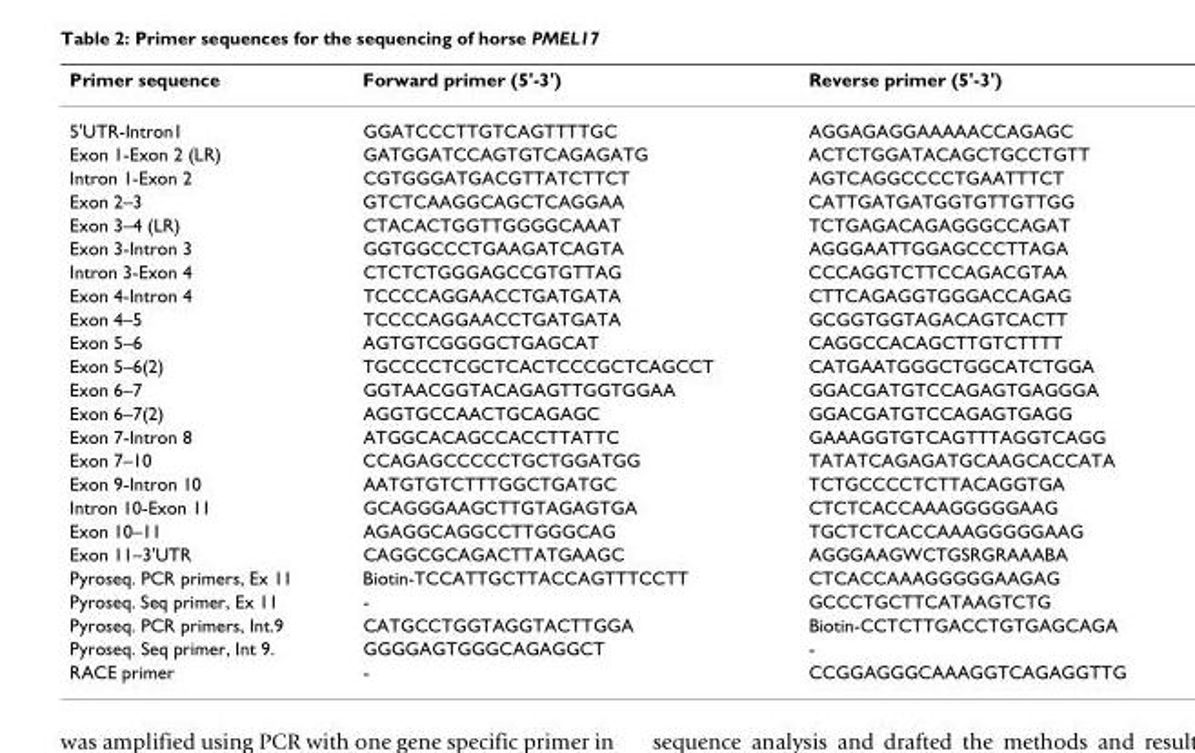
<table><thead><tr><td>Primer sequence</td><td>Forward primer (5&#x27;-3&#x27;)</td><td>Reverse primer (5&#x27;-3&#x27;)</td></tr></thead><tbody><tr><td>5&#x27;UTR-Intron1</td><td>GGATCCCTTGTCAGTTTTGC</td><td>AGGAGAGGAAAAACCAGAGC</td></tr><tr><td>Exon 1-Exon 2 (LR)</td><td>GATGGATCCAGTGTCAGAGATG</td><td>ACTCTGGATACAGCTGCCTGTT</td></tr><tr><td>Intron 1-Exon 2</td><td>CGTGGGATGACGTTATCTTCT</td><td>AGTCAGGCCCCTGAATTTCT</td></tr><tr><td>Exon 2–3</td><td>GTCTCAAGGCAGCTCAGGAA</td><td>CATTGATGATGGTGTTGTTGG</td></tr><tr><td>Exon 3–4 (LR)</td><td>CTACACTGGTTGGGGCAAAT</td><td>TCTGAGACAGAGGGCCAGAT</td></tr><tr><td>Exon 3-Intron 3</td><td>GGTGGCCCTGAAGATCAGTA</td><td>AGGGAATTGGAGCCCTTAGA</td></tr><tr><td>Intron 3-Exon 4</td><td>CTCTCTGGGAGCCGTGTTAG</td><td>CCCAGGTCTTCCAGACGTAA</td></tr><tr><td>Exon 4-Intron 4</td><td>TCCCCAGGAACCTGATGATA</td><td>CTTCAGAGGTGGGACCAGAG</td></tr><tr><td>Exon 4–5</td><td>TCCCCAGGAACCTGATGATA</td><td>GCGGTGGTAGACAGTCACTT</td></tr><tr><td>Exon 5–6</td><td>AGTGTCGGGGCTGAGCAT</td><td>CAGGCCACAGCTTGTCTTTT</td></tr><tr><td>Exon 5–6(2)</td><td>TGCCCCTCGCTCACTCCCGCTCAGCCT</td><td>CATGAATGGGCTGGCATCTGGA</td></tr><tr><td>Exon 6–7</td><td>GGTAACGGTACAGAGTTGGTGGAA</td><td>GGACGATGTCCAGAGTGAGGGA</td></tr><tr><td>Exon 6–7(2)</td><td>AGGTGCCAACTGCAGAGC</td><td>GGACGATGTCCAGAGTGAGG</td></tr><tr><td>Exon 7-Intron 8</td><td>ATGGCACAGCCACCTTATTC</td><td>GAAAGGTGTCAGTTTAGGTCAGG</td></tr><tr><td>Exon 7–10</td><td>CCAGAGCCCCCTGCTGGATGG</td><td>TATATCAGAGATGCAAGCACCATA</td></tr><tr><td>Exon 9-Intron 10</td><td>AATGTGTCTTTGGCTGATGC</td><td>TCTGCCCCTCTTACAGGTGA</td></tr><tr><td>Intron 10-Exon 11</td><td>GCAGGGAAGCTTGTAGAGTGA</td><td>CTCTCACCAAAGGGGGAAG</td></tr><tr><td>Exon 10–11</td><td>AGAGGCAGGCCTTGGGCAG</td><td>TGCTCTCACCAAAGGGGGAAG</td></tr><tr><td>Exon 11–3&#x27;UTR</td><td>CAGGCGCAGACTTATGAAGC</td><td>AGGGAAGWCTGSRGRAAABA</td></tr><tr><td>Pyroseq. PCR primers, Ex 11</td><td>Biotin-TCCATTGCTTACCAGTTTCCTT</td><td>CTCACCAAAGGGGGAAGAG</td></tr><tr><td>Pyroseq. Seq primer, Ex 11</td><td>-</td><td>GCCCTGCTTCATAAGTCTG</td></tr><tr><td>Pyroseq. PCR primers, Int.9</td><td>CATGCCTGGTAGGTACTTGGA</td><td>Biotin-CCTCTTGACCTGTGAGCAGA</td></tr><tr><td>Pyroseq. Seq primer, Int 9.</td><td>GGGGAGTGGGCAGAGGCT</td><td>-</td></tr><tr><td>RACE primer</td><td>-</td><td>CCGGAGGGCAAAGGTCAGAGGTTG</td></tr></tbody></table>